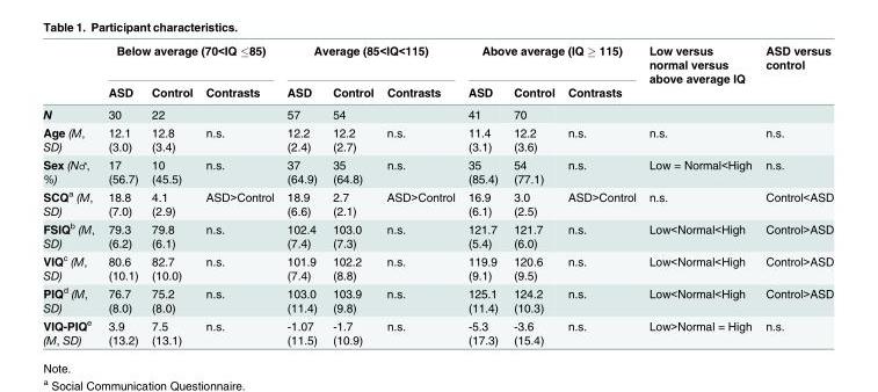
<table><thead><tr><td rowspan="2"></td><td colspan="3">Below average (70&lt;IQ ≤85)</td><td colspan="3">Average (85&lt;IQ&lt;115)</td><td colspan="3">Above average (IQ ≥ 115)</td><td rowspan="2">Low versus normal versus above average IQ</td><td rowspan="2">ASD versus control</td></tr><tr><td>ASD</td><td>Control</td><td>Contrasts</td><td>ASD</td><td>Control</td><td>Contrasts</td><td>ASD</td><td>Control</td><td>Contrasts</td></tr></thead><tbody><tr><td>N</td><td>30</td><td>22</td><td></td><td>57</td><td>54</td><td></td><td>41</td><td>70</td><td></td><td></td><td></td></tr><tr><td>Age (M, SD)</td><td>12.1 (3.0)</td><td>12.8 (3.4)</td><td>n.s.</td><td>12.2 (2.4)</td><td>12.2 (2.7)</td><td>n.s.</td><td>11.4 (3.1)</td><td>12.2 (3.6)</td><td>n.s.</td><td>n.s.</td><td>n.s.</td></tr><tr><td>Sex (N♂, %)</td><td>17 (56.7)</td><td>10 (45.5)</td><td>n.s.</td><td>37 (64.9)</td><td>35 (64.8)</td><td>n.s.</td><td>35 (85.4)</td><td>54 (77.1)</td><td>n.s.</td><td>Low = Normal&lt;High</td><td>n.s.</td></tr><tr><td>SCQ<sup>a</sup> (M, SD)</td><td>18.8 (7.0)</td><td>4.1 (2.9)</td><td>ASD&gt;Control</td><td>18.9 (6.6)</td><td>2.7 (2.1)</td><td>ASD&gt;Control</td><td>16.9 (6.1)</td><td>3.0 (2.5)</td><td>ASD&gt;Control</td><td>n.s.</td><td>Control&lt;ASD</td></tr><tr><td>FSIQ<sup>b</sup> (M, SD)</td><td>79.3 (6.2)</td><td>79.8 (6.1)</td><td>n.s.</td><td>102.4 (7.4)</td><td>103.0 (7.3)</td><td>n.s.</td><td>121.7 (5.4)</td><td>121.7 (6.0)</td><td>n.s.</td><td>Low&lt;Normal&lt;High</td><td>Control&gt;ASD</td></tr><tr><td>VIQ<sup>c</sup> (M, SD)</td><td>80.6 (10.1)</td><td>82.7 (10.0)</td><td>n.s.</td><td>101.9 (7.4)</td><td>102.2 (8.8)</td><td>n.s.</td><td>119.9 (9.1)</td><td>120.6 (9.5)</td><td>n.s.</td><td>Low&lt;Normal&lt;High</td><td>Control&gt;ASD</td></tr><tr><td>PIQ<sup>d</sup> (M, SD)</td><td>76.7 (8.0)</td><td>75.2 (8.0)</td><td>n.s.</td><td>103.0 (11.4)</td><td>103.9 (9.8)</td><td>n.s.</td><td>125.1 (11.4)</td><td>124.2 (10.3)</td><td>n.s.</td><td>Low&lt;Normal&lt;High</td><td>Control&gt;ASD</td></tr><tr><td>VIQ-PIQ<sup>e</sup> (M, SD)</td><td>3.9 (13.2)</td><td>7.5 (13.1)</td><td>n.s.</td><td>-1.07 (11.5)</td><td>-1.7 (10.9)</td><td>n.s.</td><td>-5.3 (17.3)</td><td>-3.6 (15.4)</td><td>n.s.</td><td>Low&gt;Normal = High</td><td>n.s.</td></tr></tbody></table>